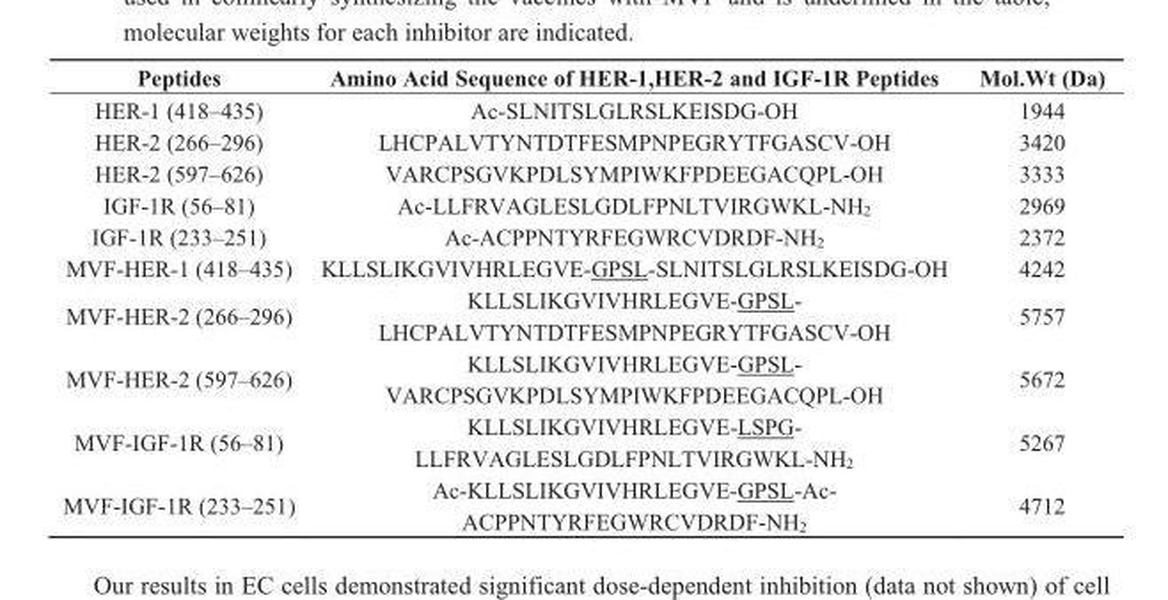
<table><thead><tr><td>Peptides</td><td>Amino Acid Sequence of HER-1,HER-2 and IGF-1R Peptides</td><td>Mol.Wt (Da)</td></tr></thead><tbody><tr><td>HER-1 (418–435)</td><td>Ac-SLNITSLGLRSLKEISDG-OH</td><td>1944</td></tr><tr><td>HER-2 (266–296)</td><td>LHCPALVTYNTDTFESMPNPEGRYTFGASCV-OH</td><td>3420</td></tr><tr><td>HER-2 (597–626)</td><td>VARCPSGVKPDLSYMPIWKFPDEEGACQPL-OH</td><td>3333</td></tr><tr><td>IGF-1R (56–81)</td><td>Ac-LLFRVAGLESLGDLFPNLTVIRGWKL-NH<sub>2</sub></td><td>2969</td></tr><tr><td>IGF-1R (233–251)</td><td>Ac-ACPPNTYRFEGWRCVDRDF-NH<sub>2</sub></td><td>2372</td></tr><tr><td>MVF-HER-1 (418–435)</td><td>KLLSLIKGVIVHRLEGVE-GPSL-SLNITSLGLRSLKEISDG-OH</td><td>4242</td></tr><tr><td>MVF-HER-2 (266–296)</td><td>KLLSLIKGVIVHRLEGVE-GPSL- LHCPALVTYNTDTFESMPNPEGRYTFGASCV-OH</td><td>5757</td></tr><tr><td>MVF-HER-2 (597–626)</td><td>KLLSLIKGVIVHRLEGVE-GPSL- VARCPSGVKPDLSYMPIWKFPDEEGACQPL-OH</td><td>5672</td></tr><tr><td>MVF-IGF-1R (56–81)</td><td>KLLSLIKGVIVHRLEGVE-LSPG- LLFRVAGLESLGDLFPNLTVIRGWKL-NH<sub>2</sub></td><td>5267</td></tr><tr><td>MVF-IGF-1R (233–251)</td><td>Ac-KLLSLIKGVIVHRLEGVE-GPSL-Ac- ACPPNTYRFEGWRCVDRDF-NH<sub>2</sub></td><td>4712</td></tr></tbody></table>